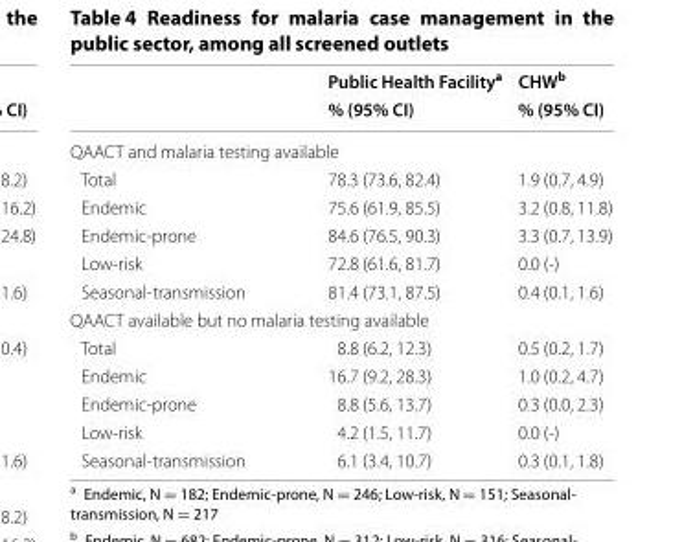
<table><thead><tr><td rowspan="2"></td><td rowspan="2">Public Health Facility<sup>a</sup> % (95% CI)</td><td rowspan="2">CHW<sup>b</sup> % (95% CI)</td></tr><tr></tr></thead><tbody><tr><td colspan="3">QAACT and malaria testing available</td></tr><tr><td>Total</td><td>78.3 (73.6, 82.4)</td><td>1.9 (0.7, 4.9)</td></tr><tr><td>Endemic</td><td>75.6 (61.9, 85.5)</td><td>3.2 (0.8, 11.8)</td></tr><tr><td>Endemic-prone</td><td>84.6 (76.5, 90.3)</td><td>3.3 (0.7, 13.9)</td></tr><tr><td>Low-risk</td><td>72.8 (61.6, 81.7)</td><td>0.0 (-)</td></tr><tr><td>Seasonal-transmission</td><td>81.4 (73.1, 87.5)</td><td>0.4 (0.1, 1.6)</td></tr><tr><td colspan="3">QAACT available but no malaria testing available</td></tr><tr><td>Total</td><td>8.8 (6.2, 12.3)</td><td>0.5 (0.2, 1.7)</td></tr><tr><td>Endemic</td><td>16.7 (9.2, 28.3)</td><td>1.0 (0.2, 4.7)</td></tr><tr><td>Endemic-prone</td><td>8.8 (5.6, 13.7)</td><td>0.3 (0.0, 2.3)</td></tr><tr><td>Low-risk</td><td>4.2 (1.5, 11.7)</td><td>0.0 (-)</td></tr><tr><td>Seasonal-transmission</td><td>6.1 (3.4, 10.7)</td><td>0.3 (0.1, 1.8)</td></tr></tbody></table>